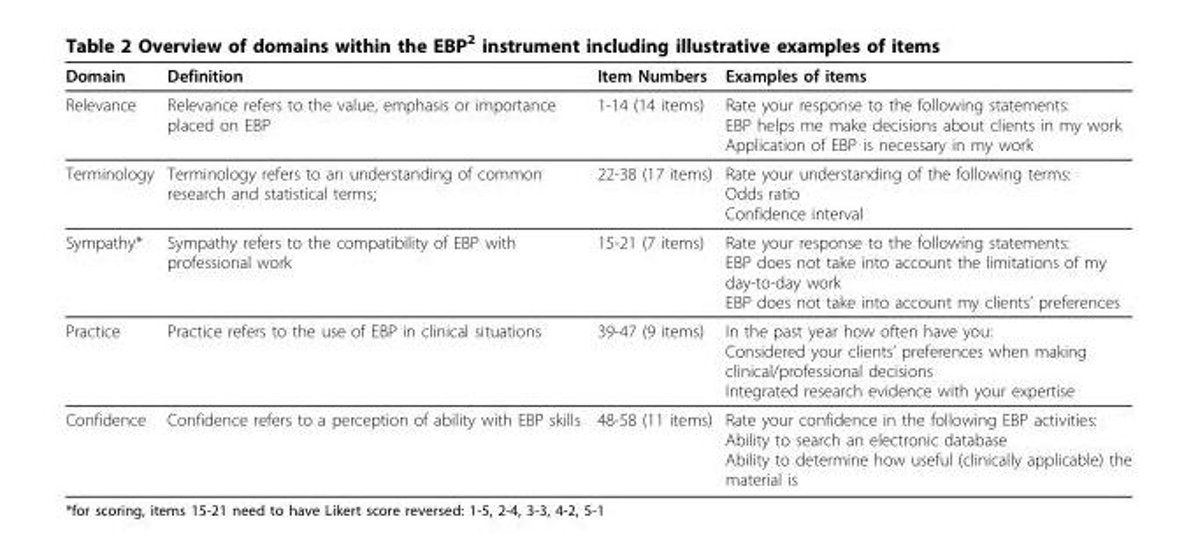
<table><thead><tr><td>Domain</td><td>Definition</td><td>Item Numbers</td><td>Examples of items</td></tr></thead><tbody><tr><td>Relevance</td><td>Relevance refers to the value, emphasis or importance placed on EBP</td><td>1-14 (14 items)</td><td>Rate your response to the following statements: EBP helps me make decisions about clients in my work Application of EBP is necessary in my work</td></tr><tr><td>Terminology</td><td>Terminology refers to an understanding of common research and statistical terms;</td><td>22-38 (17 items)</td><td>Rate your understanding of the following terms: Odds ratio Confidence interval</td></tr><tr><td>Sympathy*</td><td>Sympathy refers to the compatibility of EBP with professional work</td><td>15-21 (7 items)</td><td>Rate your response to the following statements: EBP does not take into account the limitations of my day-to-day work EBP does not take into account my clients’ preferences</td></tr><tr><td>Practice</td><td>Practice refers to the use of EBP in clinical situations</td><td>39-47 (9 items)</td><td>In the past year how often have you: Considered your clients’ preferences when making clinical/professional decisions Integrated research evidence with your expertise</td></tr><tr><td>Confidence</td><td>Confidence refers to a perception of ability with EBP skills</td><td>48-58 (11 items)</td><td>Rate your confidence in the following EBP activities: Ability to search an electronic database Ability to determine how useful (clinically applicable) the material is</td></tr></tbody></table>